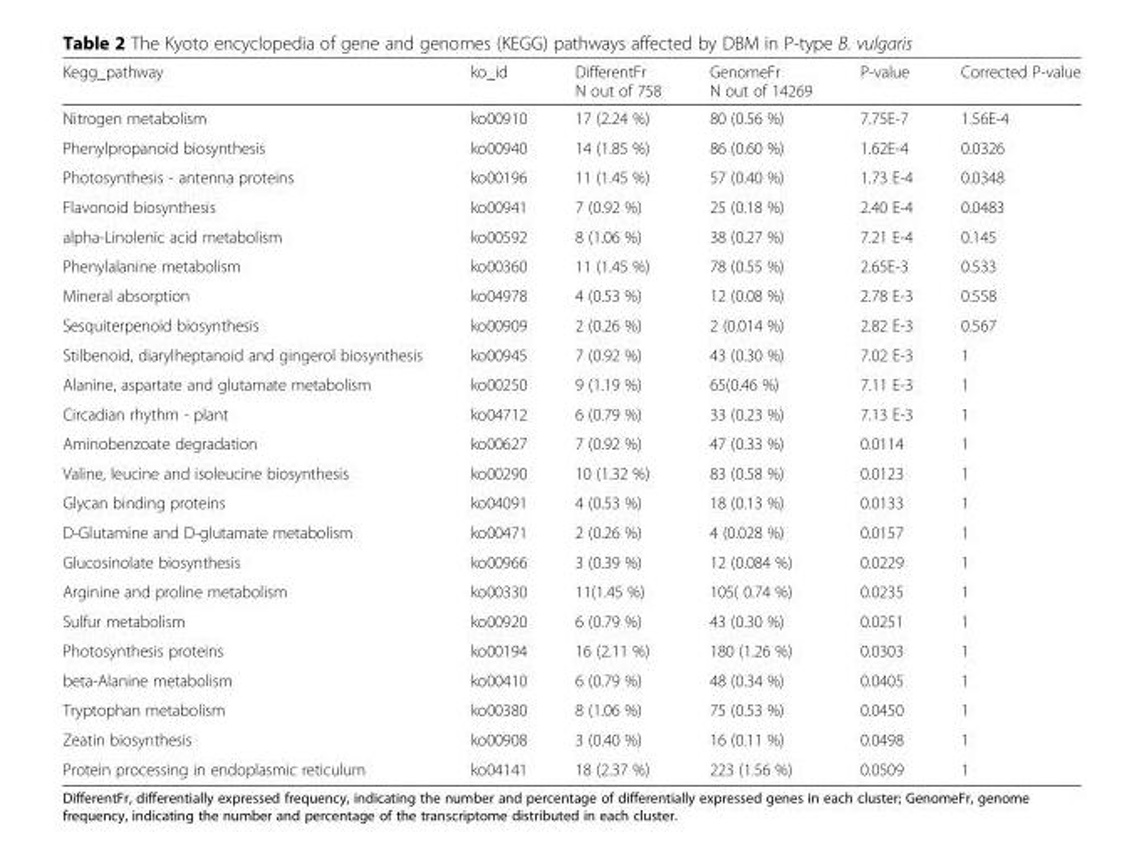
<table><thead><tr><td>Kegg_pathway</td><td>ko_id</td><td>DifferentFr N out of 758</td><td>GenomeFr N out of 14269</td><td>P-value</td><td>Corrected P-value</td></tr></thead><tbody><tr><td>Nitrogen metabolism</td><td>ko00910</td><td>17 (2.24 %)</td><td>80 (0.56 %)</td><td>7.75E-7</td><td>1.56E-4</td></tr><tr><td>Phenylpropanoid biosynthesis</td><td>ko00940</td><td>14 (1.85 %)</td><td>86 (0.60 %)</td><td>1.62E-4</td><td>0.0326</td></tr><tr><td>Photosynthesis - antenna proteins</td><td>ko00196</td><td>11 (1.45 %)</td><td>57 (0.40 %)</td><td>1.73 E-4</td><td>0.0348</td></tr><tr><td>Flavonoid biosynthesis</td><td>ko00941</td><td>7 (0.92 %)</td><td>25 (0.18 %)</td><td>2.40 E-4</td><td>0.0483</td></tr><tr><td>alpha-Linolenic acid metabolism</td><td>ko00592</td><td>8 (1.06 %)</td><td>38 (0.27 %)</td><td>7.21 E-4</td><td>0.145</td></tr><tr><td>Phenylalanine metabolism</td><td>ko00360</td><td>11 (1.45 %)</td><td>78 (0.55 %)</td><td>2.65E-3</td><td>0.533</td></tr><tr><td>Mineral absorption</td><td>ko04978</td><td>4 (0.53 %)</td><td>12 (0.08 %)</td><td>2.78 E-3</td><td>0.558</td></tr><tr><td>Sesquiterpenoid biosynthesis</td><td>ko00909</td><td>2 (0.26 %)</td><td>2 (0.014 %)</td><td>2.82 E-3</td><td>0.567</td></tr><tr><td>Stilbenoid, diarylheptanoid and gingerol biosynthesis</td><td>ko00945</td><td>7 (0.92 %)</td><td>43 (0.30 %)</td><td>7.02 E-3</td><td>1</td></tr><tr><td>Alanine, aspartate and glutamate metabolism</td><td>ko00250</td><td>9 (1.19 %)</td><td>65(0.46 %)</td><td>7.11 E-3</td><td>1</td></tr><tr><td>Circadian rhythm - plant</td><td>ko04712</td><td>6 (0.79 %)</td><td>33 (0.23 %)</td><td>7.13 E-3</td><td>1</td></tr><tr><td>Aminobenzoate degradation</td><td>ko00627</td><td>7 (0.92 %)</td><td>47 (0.33 %)</td><td>0.0114</td><td>1</td></tr><tr><td>Valine, leucine and isoleucine biosynthesis</td><td>ko00290</td><td>10 (1.32 %)</td><td>83 (0.58 %)</td><td>0.0123</td><td>1</td></tr><tr><td>Glycan binding proteins</td><td>ko04091</td><td>4 (0.53 %)</td><td>18 (0.13 %)</td><td>0.0133</td><td>1</td></tr><tr><td>D-Glutamine and D-glutamate metabolism</td><td>ko00471</td><td>2 (0.26 %)</td><td>4 (0.028 %)</td><td>0.0157</td><td>1</td></tr><tr><td>Glucosinolate biosynthesis</td><td>ko00966</td><td>3 (0.39 %)</td><td>12 (0.084 %)</td><td>0.0229</td><td>1</td></tr><tr><td>Arginine and proline metabolism</td><td>ko00330</td><td>11(1.45 %)</td><td>105( 0.74 %)</td><td>0.0235</td><td>1</td></tr><tr><td>Sulfur metabolism</td><td>ko00920</td><td>6 (0.79 %)</td><td>43 (0.30 %)</td><td>0.0251</td><td>1</td></tr><tr><td>Photosynthesis proteins</td><td>ko00194</td><td>16 (2.11 %)</td><td>180 (1.26 %)</td><td>0.0303</td><td>1</td></tr><tr><td>beta-Alanine metabolism</td><td>ko00410</td><td>6 (0.79 %)</td><td>48 (0.34 %)</td><td>0.0405</td><td>1</td></tr><tr><td>Tryptophan metabolism</td><td>ko00380</td><td>8 (1.06 %)</td><td>75 (0.53 %)</td><td>0.0450</td><td>1</td></tr><tr><td>Zeatin biosynthesis</td><td>ko00908</td><td>3 (0.40 %)</td><td>16 (0.11 %)</td><td>0.0498</td><td>1</td></tr><tr><td>Protein processing in endoplasmic reticulum</td><td>ko04141</td><td>18 (2.37 %)</td><td>223 (1.56 %)</td><td>0.0509</td><td>1</td></tr></tbody></table>